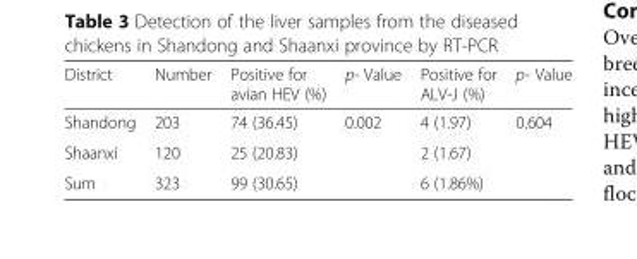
<table><thead><tr><td>District</td><td>Number</td><td>Positive for avian HEV (%)</td><td>p- Value</td><td>Positive for ALV-J (%)</td><td>p- Value</td></tr></thead><tbody><tr><td>Shandong</td><td>203</td><td>74 (36.45)</td><td rowspan="2">0.002</td><td>4 (1.97)</td><td rowspan="2">0.604</td></tr><tr><td>Shaanxi</td><td>120</td><td>25 (20.83)</td><td>2 (1.67)</td></tr><tr><td>Sum</td><td>323</td><td colspan="2">99 (30.65)</td><td colspan="2">6 (1.86%)</td></tr></tbody></table>